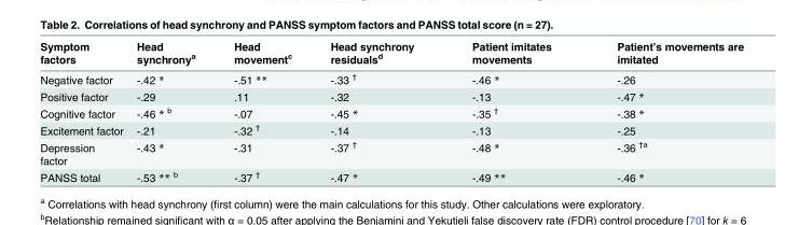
<table><thead><tr><td>Symptom factors</td><td>Head synchrony<sup>a</sup></td><td>Head movement<sup>c</sup></td><td>Head synchrony residuals<sup>d</sup></td><td>Patient imitates movements</td><td>Patient’s movements are imitated</td></tr></thead><tbody><tr><td>Negative factor</td><td>-.42 *</td><td>-.51 **</td><td>-.33 <sup>†</sup></td><td>-.46 *</td><td>-.26</td></tr><tr><td>Positive factor</td><td>-.29</td><td>.11</td><td>-.32</td><td>-.13</td><td>-.47 *</td></tr><tr><td>Cognitive factor</td><td>-.46 * <sup>b</sup></td><td>-.07</td><td>-.45 *</td><td>-.35 <sup>†</sup></td><td>-.38 *</td></tr><tr><td>Excitement factor</td><td>-.21</td><td>-.32 <sup>†</sup></td><td>-.14</td><td>-.13</td><td>-.25</td></tr><tr><td>Depression factor</td><td>-.43 *</td><td>-.31</td><td>-.37 <sup>†</sup></td><td>-.48 *</td><td>-.36 <sup>†a</sup></td></tr><tr><td>PANSS total</td><td>-.53 ** <sup>b</sup></td><td>-.37 <sup>†</sup></td><td>-.47 *</td><td>-.49 **</td><td>-.46 *</td></tr></tbody></table>